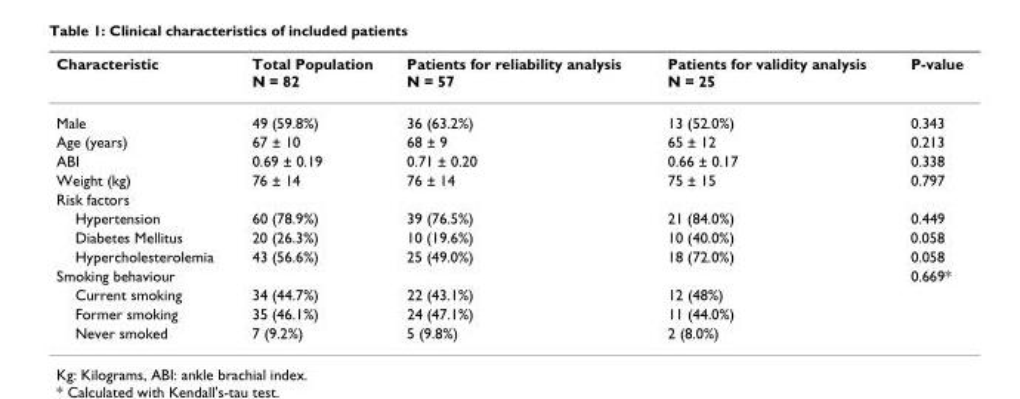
<table><thead><tr><td>Characteristic</td><td>Total Population N = 82</td><td>Patients for reliability analysis N = 57</td><td>Patients for validity analysis N = 25</td><td>P-value</td></tr></thead><tbody><tr><td>Male</td><td>49 (59.8%)</td><td>36 (63.2%)</td><td>13 (52.0%)</td><td>0.343</td></tr><tr><td>Age (years)</td><td>67 ± 10</td><td>68 ± 9</td><td>65 ± 12</td><td>0.213</td></tr><tr><td>ABI</td><td>0.69 ± 0.19</td><td>0.71 ± 0.20</td><td>0.66 ± 0.17</td><td>0.338</td></tr><tr><td>Weight (kg)</td><td>76 ± 14</td><td>76 ± 14</td><td>75 ± 15</td><td>0.797</td></tr><tr><td colspan="5">Risk factors</td></tr><tr><td>Hypertension</td><td>60 (78.9%)</td><td>39 (76.5%)</td><td>21 (84.0%)</td><td>0.449</td></tr><tr><td>Diabetes Mellitus</td><td>20 (26.3%)</td><td>10 (19.6%)</td><td>10 (40.0%)</td><td>0.058</td></tr><tr><td>Hypercholesterolemia</td><td>43 (56.6%)</td><td>25 (49.0%)</td><td>18 (72.0%)</td><td>0.058</td></tr><tr><td>Smoking behaviour</td><td></td><td></td><td></td><td>0.669*</td></tr><tr><td>Current smoking</td><td>34 (44.7%)</td><td>22 (43.1%)</td><td>12 (48%)</td><td></td></tr><tr><td>Former smoking</td><td>35 (46.1%)</td><td>24 (47.1%)</td><td>11 (44.0%)</td><td></td></tr><tr><td>Never smoked</td><td>7 (9.2%)</td><td>5 (9.8%)</td><td>2 (8.0%)</td><td></td></tr></tbody></table>